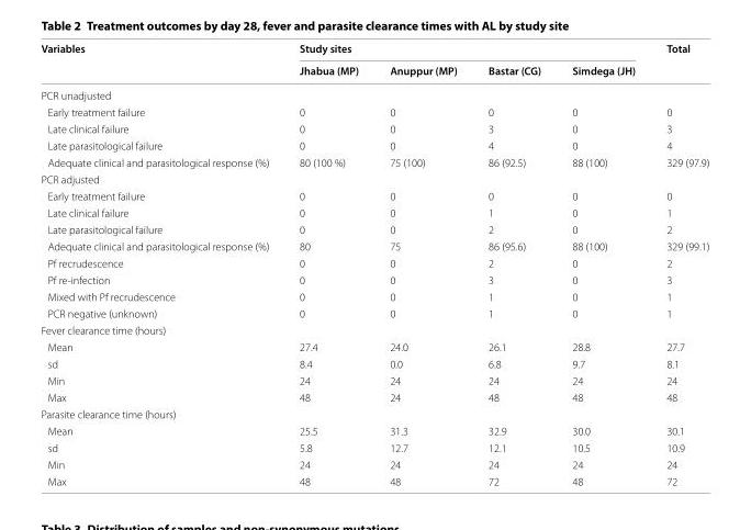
<table><thead><tr><td rowspan="2">Variables</td><td colspan="4">Study sites</td><td rowspan="2">Total</td></tr><tr><td>Jhabua (MP)</td><td>Anuppur (MP)</td><td>Bastar (CG)</td><td>Simdega (JH)</td></tr></thead><tbody><tr><td colspan="6">PCR unadjusted</td></tr><tr><td>Early treatment failure</td><td>0</td><td>0</td><td>0</td><td>0</td><td>0</td></tr><tr><td>Late clinical failure</td><td>0</td><td>0</td><td>3</td><td>0</td><td>3</td></tr><tr><td>Late parasitological failure</td><td>0</td><td>0</td><td>4</td><td>0</td><td>4</td></tr><tr><td>Adequate clinical and parasitological response (%)</td><td>80 (100 %)</td><td>75 (100)</td><td>86 (92.5)</td><td>88 (100)</td><td>329 (97.9)</td></tr><tr><td colspan="6">PCR adjusted</td></tr><tr><td>Early treatment failure</td><td>0</td><td>0</td><td>0</td><td>0</td><td>0</td></tr><tr><td>Late clinical failure</td><td>0</td><td>0</td><td>1</td><td>0</td><td>1</td></tr><tr><td>Late parasitological failure</td><td>0</td><td>0</td><td>2</td><td>0</td><td>2</td></tr><tr><td>Adequate clinical and parasitological response (%)</td><td>80</td><td>75</td><td>86 (95.6)</td><td>88 (100)</td><td>329 (99.1)</td></tr><tr><td>Pf recrudescence</td><td>0</td><td>0</td><td>2</td><td>0</td><td>2</td></tr><tr><td>Pf re‑infection</td><td>0</td><td>0</td><td>3</td><td>0</td><td>3</td></tr><tr><td>Mixed with Pf recrudescence</td><td>0</td><td>0</td><td>1</td><td>0</td><td>1</td></tr><tr><td>PCR negative (unknown)</td><td>0</td><td>0</td><td>1</td><td>0</td><td>1</td></tr><tr><td colspan="6">Fever clearance time (hours)</td></tr><tr><td>Mean</td><td>27.4</td><td>24.0</td><td>26.1</td><td>28.8</td><td>27.7</td></tr><tr><td>sd</td><td>8.4</td><td>0.0</td><td>6.8</td><td>9.7</td><td>8.1</td></tr><tr><td>Min</td><td>24</td><td>24</td><td>24</td><td>24</td><td>24</td></tr><tr><td>Max</td><td>48</td><td>24</td><td>48</td><td>48</td><td>48</td></tr><tr><td colspan="6">Parasite clearance time (hours)</td></tr><tr><td>Mean</td><td>25.5</td><td>31.3</td><td>32.9</td><td>30.0</td><td>30.1</td></tr><tr><td>sd</td><td>5.8</td><td>12.7</td><td>12.1</td><td>10.5</td><td>10.9</td></tr><tr><td>Min</td><td>24</td><td>24</td><td>24</td><td>24</td><td>24</td></tr><tr><td>Max</td><td>48</td><td>48</td><td>72</td><td>48</td><td>72</td></tr></tbody></table>